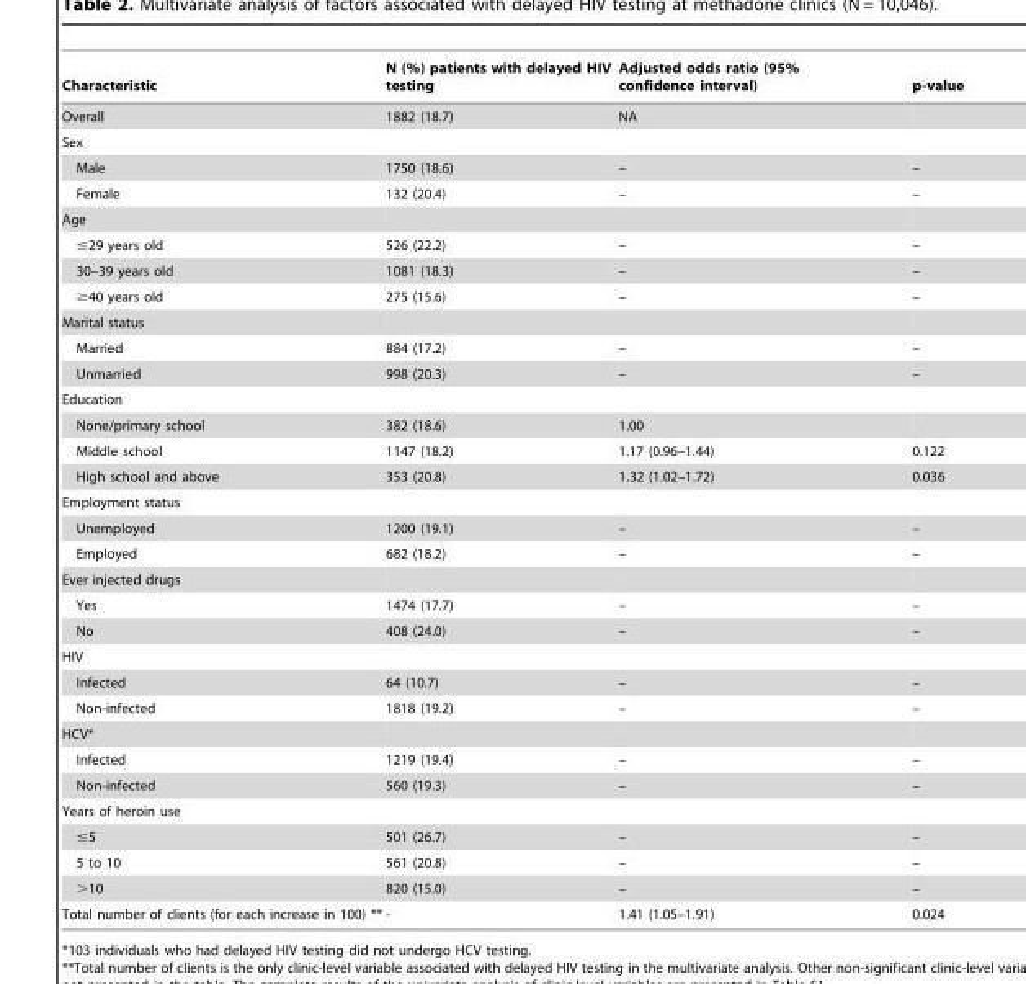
<table><thead><tr><td>Characteristic</td><td>N (%) patients with delayed HIV testing</td><td>Adjusted odds ratio (95% confidence interval)</td><td>p-value</td></tr></thead><tbody><tr><td>Overall</td><td>1882 (18.7)</td><td>NA</td><td></td></tr><tr><td colspan="4">Sex</td></tr><tr><td>Male</td><td>1750 (18.6)</td><td>–</td><td>–</td></tr><tr><td>Female</td><td>132 (20.4)</td><td>–</td><td>–</td></tr><tr><td colspan="4">Age</td></tr><tr><td>≤29 years old</td><td>526 (22.2)</td><td>–</td><td>–</td></tr><tr><td>30–39 years old</td><td>1081 (18.3)</td><td>–</td><td>–</td></tr><tr><td>≥40 years old</td><td>275 (15.6)</td><td>–</td><td>–</td></tr><tr><td colspan="4">Marital status</td></tr><tr><td>Married</td><td>884 (17.2)</td><td>–</td><td>–</td></tr><tr><td>Unmarried</td><td>998 (20.3)</td><td>–</td><td>–</td></tr><tr><td colspan="4">Education</td></tr><tr><td>None/primary school</td><td>382 (18.6)</td><td>1.00</td><td></td></tr><tr><td>Middle school</td><td>1147 (18.2)</td><td>1.17 (0.96–1.44)</td><td>0.122</td></tr><tr><td>High school and above</td><td>353 (20.8)</td><td>1.32 (1.02–1.72)</td><td>0.036</td></tr><tr><td colspan="4">Employment status</td></tr><tr><td>Unemployed</td><td>1200 (19.1)</td><td>–</td><td>–</td></tr><tr><td>Employed</td><td>682 (18.2)</td><td>–</td><td>–</td></tr><tr><td colspan="4">Ever injected drugs</td></tr><tr><td>Yes</td><td>1474 (17.7)</td><td>–</td><td>–</td></tr><tr><td>No</td><td>408 (24.0)</td><td>–</td><td>–</td></tr><tr><td colspan="4">HIV</td></tr><tr><td>Infected</td><td>64 (10.7)</td><td>–</td><td>–</td></tr><tr><td>Non-infected</td><td>1818 (19.2)</td><td>–</td><td>–</td></tr><tr><td colspan="4">HCV*</td></tr><tr><td>Infected</td><td>1219 (19.4)</td><td>–</td><td>–</td></tr><tr><td>Non-infected</td><td>560 (19.3)</td><td>–</td><td>–</td></tr><tr><td colspan="4">Years of heroin use</td></tr><tr><td>≤5</td><td>501 (26.7)</td><td>–</td><td>–</td></tr><tr><td>5 to 10</td><td>561 (20.8)</td><td>–</td><td>–</td></tr><tr><td>&gt;10</td><td>820 (15.0)</td><td>–</td><td>–</td></tr><tr><td>Total number of clients (for each increase in 100) **</td><td>-</td><td>1.41 (1.05–1.91)</td><td>0.024</td></tr></tbody></table>